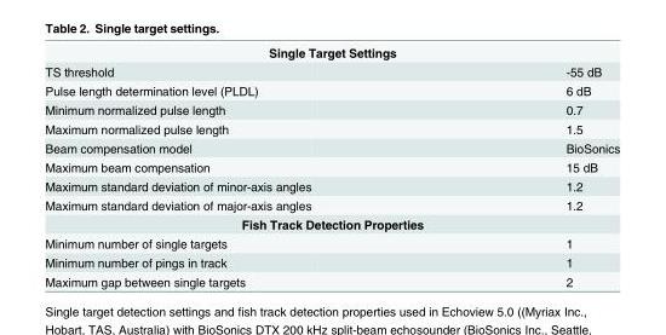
<table><tbody><tr><td colspan="2">Single Target Settings</td></tr><tr><td>TS threshold</td><td>-55 dB</td></tr><tr><td>Pulse length determination level (PLDL)</td><td>6 dB</td></tr><tr><td>Minimum normalized pulse length</td><td>0.7</td></tr><tr><td>Maximum normalized pulse length</td><td>1.5</td></tr><tr><td>Beam compensation model</td><td>BioSonics</td></tr><tr><td>Maximum beam compensation</td><td>15 dB</td></tr><tr><td>Maximum standard deviation of minor-axis angles</td><td>1.2</td></tr><tr><td>Maximum standard deviation of major-axis angles</td><td>1.2</td></tr><tr><td colspan="2">Fish Track Detection Properties</td></tr><tr><td>Minimum number of single targets</td><td>1</td></tr><tr><td>Minimum number of pings in track</td><td>1</td></tr><tr><td>Maximum gap between single targets</td><td>2</td></tr></tbody></table>